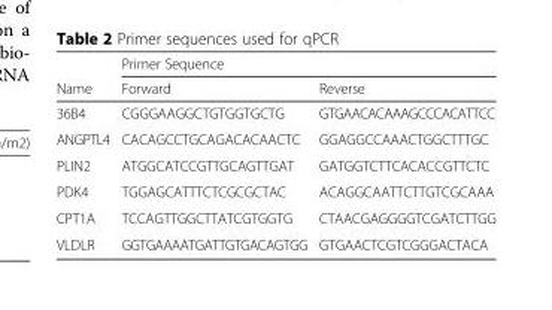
<table><thead><tr><td rowspan="2">Name</td><td colspan="2">Primer Sequence</td></tr><tr><td>Forward</td><td>Reverse</td></tr></thead><tbody><tr><td>36B4</td><td>CGGGAAGGCTGTGGTGCTG</td><td>GTGAACACAAAGCCCACATTCC</td></tr><tr><td>ANGPTL4</td><td>CACAGCCTGCAGACACAACTC</td><td>GGAGGCCAAACTGGCTTTGC</td></tr><tr><td>PLIN2</td><td>ATGGCATCCGTTGCAGTTGAT</td><td>GATGGTCTTCACACCGTTCTC</td></tr><tr><td>PDK4</td><td>TGGAGCATTTCTCGCGCTAC</td><td>ACAGGCAATTCTTGTCGCAAA</td></tr><tr><td>CPT1A</td><td>TCCAGTTGGCTTATCGTGGTG</td><td>CTAACGAGGGGTCGATCTTGG</td></tr><tr><td>VLDLR</td><td>GGTGAAAATGATTGTGACAGTGG</td><td>GTGAACTCGTCGGGACTACA</td></tr></tbody></table>